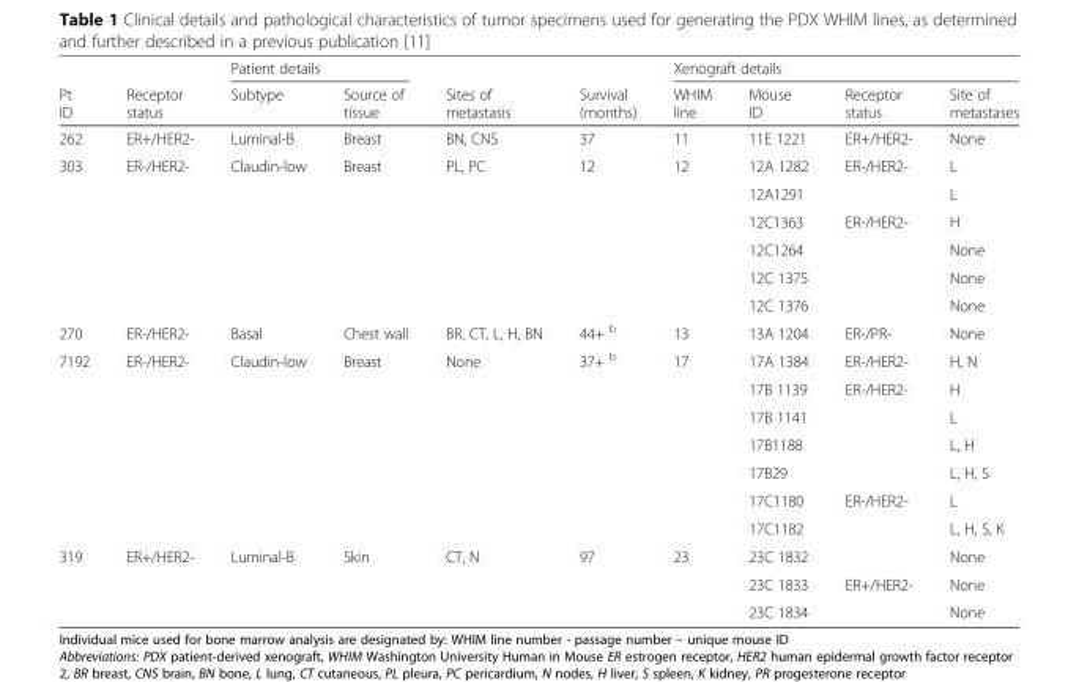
<table><thead><tr><td rowspan="2">Pt ID</td><td rowspan="2">Receptor status</td><td colspan="2">Patient details</td><td rowspan="2">Sites of metastasis</td><td rowspan="2">Survival (months)</td><td colspan="4">Xenograft details</td></tr><tr><td>Subtype</td><td>Source of tissue</td><td>WHIM line</td><td>Mouse ID</td><td>Receptor status</td><td>Site of metastases</td></tr></thead><tbody><tr><td>262</td><td>ER+/HER2-</td><td>Luminal-B</td><td>Breast</td><td>BN, CNS</td><td>37</td><td>11</td><td>11E 1221</td><td>ER+/HER2-</td><td>None</td></tr><tr><td rowspan="6">303</td><td rowspan="6">ER-/HER2-</td><td rowspan="6">Claudin-low</td><td rowspan="6">Breast</td><td rowspan="6">PL, PC</td><td rowspan="6">12</td><td rowspan="6">12</td><td>12A 1282</td><td rowspan="2">ER-/HER2-</td><td>L</td></tr><tr><td>12A1291</td><td>L</td></tr><tr><td>12C1363</td><td rowspan="4">ER-/HER2-</td><td>H</td></tr><tr><td>12C1264</td><td>None</td></tr><tr><td>12C 1375</td><td>None</td></tr><tr><td>12C 1376</td><td>None</td></tr><tr><td>270</td><td>ER-/HER2-</td><td>Basal</td><td>Chest wall</td><td>BR, CT, L, H, BN</td><td>44+ <sup>b</sup></td><td>13</td><td>13A 1204</td><td>ER-/PR-</td><td>None</td></tr><tr><td rowspan="7">7192</td><td rowspan="7">ER-/HER2-</td><td rowspan="7">Claudin-low</td><td rowspan="7">Breast</td><td rowspan="7">None</td><td rowspan="7">37+ <sup>b</sup></td><td rowspan="7">17</td><td>17A 1384</td><td>ER-/HER2-</td><td>H, N</td></tr><tr><td>17B 1139</td><td rowspan="4">ER-/HER2-</td><td>H</td></tr><tr><td>17B 1141</td><td>L</td></tr><tr><td>17B1188</td><td>L, H</td></tr><tr><td>17B29</td><td>L, H, S</td></tr><tr><td>17C1180</td><td rowspan="2">ER-/HER2-</td><td>L</td></tr><tr><td>17C1182</td><td>L, H, S, K</td></tr><tr><td rowspan="3">319</td><td rowspan="3">ER+/HER2-</td><td rowspan="3">Luminal-B</td><td rowspan="3">Skin</td><td rowspan="3">CT, N</td><td rowspan="3">97</td><td rowspan="3">23</td><td>23C 1832</td><td></td><td>None</td></tr><tr><td>23C 1833</td><td>ER+/HER2-</td><td>None</td></tr><tr><td>23C 1834</td><td></td><td>None</td></tr></tbody></table>